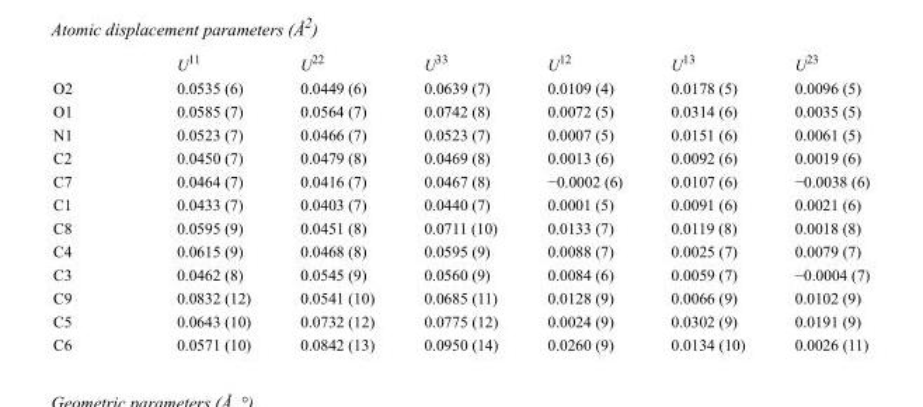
<table><thead><tr><td></td><td>U<sup>11</sup></td><td>U<sup>22</sup></td><td>U<sup>33</sup></td><td>U<sup>12</sup></td><td>U<sup>13</sup></td><td>U<sup>23</sup></td></tr></thead><tbody><tr><td>O2</td><td>0.0535 (6)</td><td>0.0449 (6)</td><td>0.0639 (7)</td><td>0.0109 (4)</td><td>0.0178 (5)</td><td>0.0096 (5)</td></tr><tr><td>O1</td><td>0.0585 (7)</td><td>0.0564 (7)</td><td>0.0742 (8)</td><td>0.0072 (5)</td><td>0.0314 (6)</td><td>0.0035 (5)</td></tr><tr><td>N1</td><td>0.0523 (7)</td><td>0.0466 (7)</td><td>0.0523 (7)</td><td>0.0007 (5)</td><td>0.0151 (6)</td><td>0.0061 (5)</td></tr><tr><td>C2</td><td>0.0450 (7)</td><td>0.0479 (8)</td><td>0.0469 (8)</td><td>0.0013 (6)</td><td>0.0092 (6)</td><td>0.0019 (6)</td></tr><tr><td>C7</td><td>0.0464 (7)</td><td>0.0416 (7)</td><td>0.0467 (8)</td><td>−0.0002 (6)</td><td>0.0107 (6)</td><td>−0.0038 (6)</td></tr><tr><td>C1</td><td>0.0433 (7)</td><td>0.0403 (7)</td><td>0.0440 (7)</td><td>0.0001 (5)</td><td>0.0091 (6)</td><td>0.0021 (6)</td></tr><tr><td>C8</td><td>0.0595 (9)</td><td>0.0451 (8)</td><td>0.0711 (10)</td><td>0.0133 (7)</td><td>0.0119 (8)</td><td>0.0018 (8)</td></tr><tr><td>C4</td><td>0.0615 (9)</td><td>0.0468 (8)</td><td>0.0595 (9)</td><td>0.0088 (7)</td><td>0.0025 (7)</td><td>0.0079 (7)</td></tr><tr><td>C3</td><td>0.0462 (8)</td><td>0.0545 (9)</td><td>0.0560 (9)</td><td>0.0084 (6)</td><td>0.0059 (7)</td><td>−0.0004 (7)</td></tr><tr><td>C9</td><td>0.0832 (12)</td><td>0.0541 (10)</td><td>0.0685 (11)</td><td>0.0128 (9)</td><td>0.0066 (9)</td><td>0.0102 (9)</td></tr><tr><td>C5</td><td>0.0643 (10)</td><td>0.0732 (12)</td><td>0.0775 (12)</td><td>0.0024 (9)</td><td>0.0302 (9)</td><td>0.0191 (9)</td></tr><tr><td>C6</td><td>0.0571 (10)</td><td>0.0842 (13)</td><td>0.0950 (14)</td><td>0.0260 (9)</td><td>0.0134 (10)</td><td>0.0026 (11)</td></tr></tbody></table>